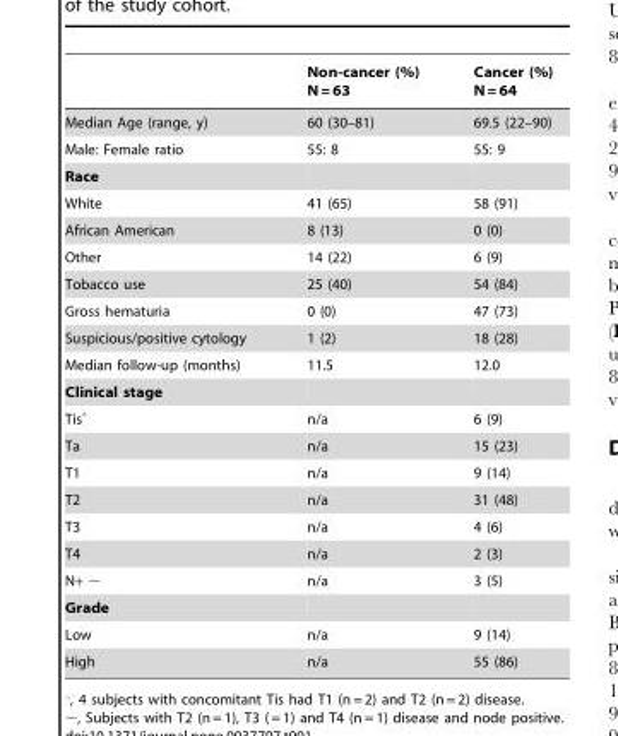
<table><thead><tr><td></td><td>Non-cancer (%) N = 63</td><td>Cancer (%) N = 64</td></tr></thead><tbody><tr><td>Median Age (range, y)</td><td>60 (30–81)</td><td>69.5 (22–90)</td></tr><tr><td>Male: Female ratio</td><td>55: 8</td><td>55: 9</td></tr><tr><td colspan="3">Race</td></tr><tr><td>White</td><td>41 (65)</td><td>58 (91)</td></tr><tr><td>African American</td><td>8 (13)</td><td>0 (0)</td></tr><tr><td>Other</td><td>14 (22)</td><td>6 (9)</td></tr><tr><td>Tobacco use</td><td>25 (40)</td><td>54 (84)</td></tr><tr><td>Gross hematuria</td><td>0 (0)</td><td>47 (73)</td></tr><tr><td>Suspicious/positive cytology</td><td>1 (2)</td><td>18 (28)</td></tr><tr><td>Median follow-up (months)</td><td>11.5</td><td>12.0</td></tr><tr><td colspan="3">Clinical stage</td></tr><tr><td>Tisˆ</td><td>n/a</td><td>6 (9)</td></tr><tr><td>Ta</td><td>n/a</td><td>15 (23)</td></tr><tr><td>T1</td><td>n/a</td><td>9 (14)</td></tr><tr><td>T2</td><td>n/a</td><td>31 (48)</td></tr><tr><td>T3</td><td>n/a</td><td>4 (6)</td></tr><tr><td>T4</td><td>n/a</td><td>2 (3)</td></tr><tr><td>N+ ∼</td><td>n/a</td><td>3 (5)</td></tr><tr><td colspan="3">Grade</td></tr><tr><td>Low</td><td>n/a</td><td>9 (14)</td></tr><tr><td>High</td><td>n/a</td><td>55 (86)</td></tr></tbody></table>